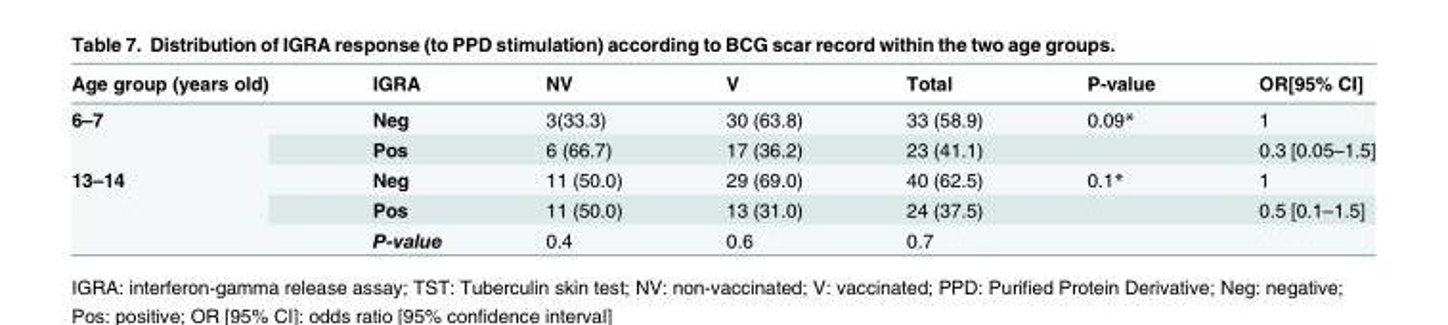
<table><thead><tr><td>Age group (years old)</td><td>IGRA</td><td>NV</td><td>V</td><td>Total</td><td>P-value</td><td>OR[95% CI]</td></tr></thead><tbody><tr><td rowspan="2">6–7</td><td>Neg</td><td>3(33.3)</td><td>30 (63.8)</td><td>33 (58.9)</td><td>0.09*</td><td>1</td></tr><tr><td>Pos</td><td>6 (66.7)</td><td>17 (36.2)</td><td>23 (41.1)</td><td></td><td>0.3 [0.05–1.5]</td></tr><tr><td rowspan="3">13–14</td><td>Neg</td><td>11 (50.0)</td><td>29 (69.0)</td><td>40 (62.5)</td><td>0.1*</td><td>1</td></tr><tr><td>Pos</td><td>11 (50.0)</td><td>13 (31.0)</td><td>24 (37.5)</td><td></td><td>0.5 [0.1–1.5]</td></tr><tr><td>P-value</td><td>0.4</td><td>0.6</td><td>0.7</td><td></td><td></td></tr></tbody></table>